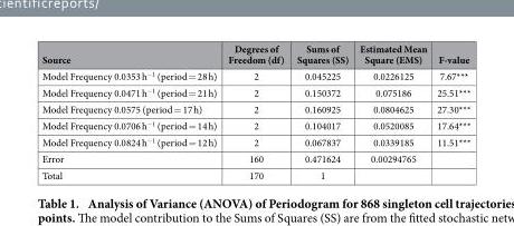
<table><thead><tr><td>Source</td><td>Degrees of Freedom (df)</td><td>Sums of Squares (SS)</td><td>Estimated Mean Square (EMS)</td><td>F-value</td></tr></thead><tbody><tr><td>Model Frequency 0.0353 h<sup>−1</sup> (period = 28 h)</td><td>2</td><td>0.045225</td><td>0.0226125</td><td>7.67***</td></tr><tr><td>Model Frequency 0.0471 h<sup>−1</sup> (period = 21 h)</td><td>2</td><td>0.150372</td><td>0.075186</td><td>25.51***</td></tr><tr><td>Model Frequency 0.0575 (period = 17 h)</td><td>2</td><td>0.160925</td><td>0.0804625</td><td>27.30***</td></tr><tr><td>Model Frequency 0.0706 h<sup>−1</sup> (period = 14 h)</td><td>2</td><td>0.104017</td><td>0.0520085</td><td>17.64***</td></tr><tr><td>Model Frequency 0.0824 h<sup>−1</sup> (period = 12 h)</td><td>2</td><td>0.067837</td><td>0.0339185</td><td>11.51***</td></tr><tr><td>Error</td><td>160</td><td>0.471624</td><td>0.00294765</td><td></td></tr><tr><td>Total</td><td>170</td><td>1</td><td></td><td></td></tr></tbody></table>